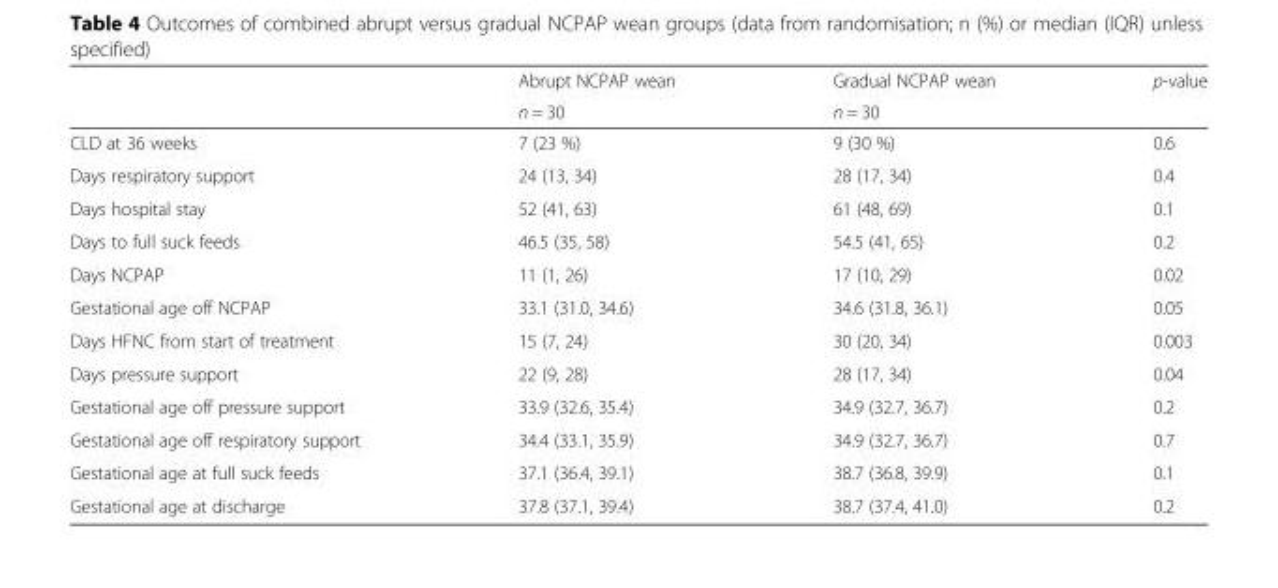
<table><thead><tr><td rowspan="2"></td><td rowspan="2">Abrupt NCPAP wean n = 30</td><td rowspan="2">Gradual NCPAP wean n = 30</td><td rowspan="2">p-value</td></tr><tr></tr></thead><tbody><tr><td>CLD at 36 weeks</td><td>7 (23 %)</td><td>9 (30 %)</td><td>0.6</td></tr><tr><td>Days respiratory support</td><td>24 (13, 34)</td><td>28 (17, 34)</td><td>0.4</td></tr><tr><td>Days hospital stay</td><td>52 (41, 63)</td><td>61 (48, 69)</td><td>0.1</td></tr><tr><td>Days to full suck feeds</td><td>46.5 (35, 58)</td><td>54.5 (41, 65)</td><td>0.2</td></tr><tr><td>Days NCPAP</td><td>11 (1, 26)</td><td>17 (10, 29)</td><td>0.02</td></tr><tr><td>Gestational age off NCPAP</td><td>33.1 (31.0, 34.6)</td><td>34.6 (31.8, 36.1)</td><td>0.05</td></tr><tr><td>Days HFNC from start of treatment</td><td>15 (7, 24)</td><td>30 (20, 34)</td><td>0.003</td></tr><tr><td>Days pressure support</td><td>22 (9, 28)</td><td>28 (17, 34)</td><td>0.04</td></tr><tr><td>Gestational age off pressure support</td><td>33.9 (32.6, 35.4)</td><td>34.9 (32.7, 36.7)</td><td>0.2</td></tr><tr><td>Gestational age off respiratory support</td><td>34.4 (33.1, 35.9)</td><td>34.9 (32.7, 36.7)</td><td>0.7</td></tr><tr><td>Gestational age at full suck feeds</td><td>37.1 (36.4, 39.1)</td><td>38.7 (36.8, 39.9)</td><td>0.1</td></tr><tr><td>Gestational age at discharge</td><td>37.8 (37.1, 39.4)</td><td>38.7 (37.4, 41.0)</td><td>0.2</td></tr></tbody></table>